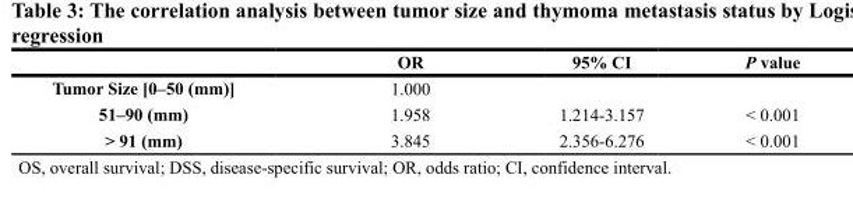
<table><thead><tr><td></td><td>OR</td><td>95% CI</td><td>P value</td></tr></thead><tbody><tr><td>Tumor Size [0–50 (mm)]</td><td>1.000</td><td></td><td></td></tr><tr><td>51–90 (mm)</td><td>1.958</td><td>1.214-3.157</td><td>&lt; 0.001</td></tr><tr><td>&gt; 91 (mm)</td><td>3.845</td><td>2.356-6.276</td><td>&lt; 0.001</td></tr></tbody></table>